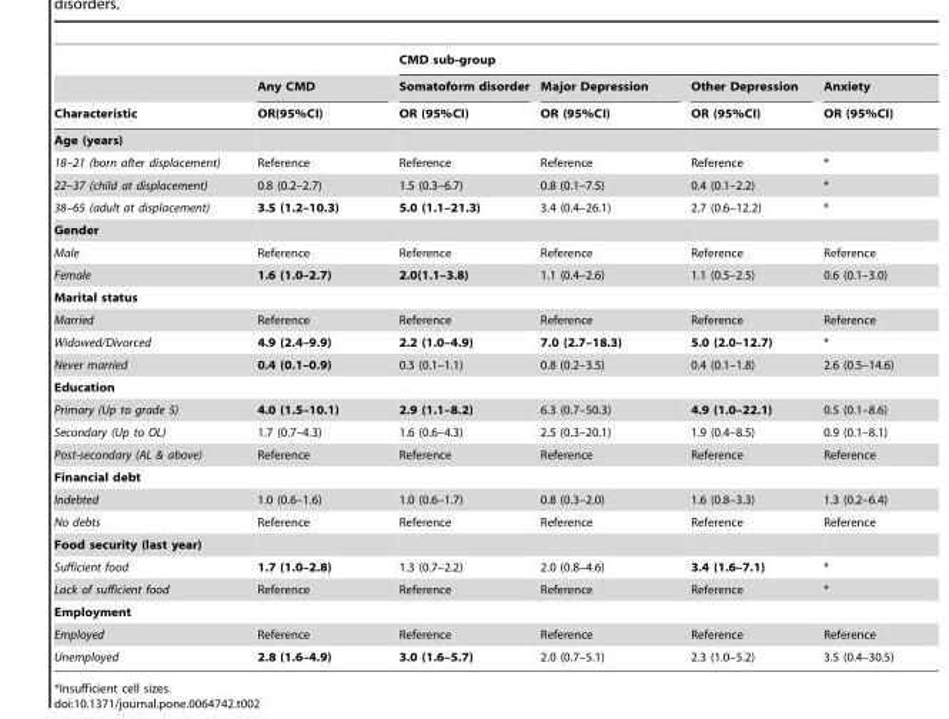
<table><thead><tr><td rowspan="3">Characteristic</td><td rowspan="3">Any CMD OR(95%CI)</td><td colspan="4">CMD sub-group</td></tr><tr><td rowspan="2">Somatoform disorder OR (95%CI)</td><td rowspan="2">Major Depression OR (95%CI)</td><td rowspan="2">Other Depression OR (95%CI)</td><td rowspan="2">Anxiety OR (95%CI)</td></tr><tr></tr></thead><tbody><tr><td colspan="6">Age (years)</td></tr><tr><td>18–21 (born after displacement)</td><td>Reference</td><td>Reference</td><td>Reference</td><td>Reference</td><td>*</td></tr><tr><td>22–37 (child at displacement)</td><td>0.8 (0.2–2.7)</td><td>1.5 (0.3–6.7)</td><td>0.8 (0.1–7.5)</td><td>0.4 (0.1–2.2)</td><td>*</td></tr><tr><td>38–65 (adult at displacement)</td><td>3.5 (1.2–10.3)</td><td>5.0 (1.1–21.3)</td><td>3.4 (0.4–26.1)</td><td>2.7 (0.6–12.2)</td><td>*</td></tr><tr><td colspan="6">Gender</td></tr><tr><td>Male</td><td>Reference</td><td>Reference</td><td>Reference</td><td>Reference</td><td>Reference</td></tr><tr><td>Female</td><td>1.6 (1.0–2.7)</td><td>2.0(1.1–3.8)</td><td>1.1 (0.4–2.6)</td><td>1.1 (0.5–2.5)</td><td>0.6 (0.1–3.0)</td></tr><tr><td colspan="6">Marital status</td></tr><tr><td>Married</td><td>Reference</td><td>Reference</td><td>Reference</td><td>Reference</td><td>Reference</td></tr><tr><td>Widowed/Divorced</td><td>4.9 (2.4–9.9)</td><td>2.2 (1.0–4.9)</td><td>7.0 (2.7–18.3)</td><td>5.0 (2.0–12.7)</td><td>*</td></tr><tr><td>Never married</td><td>0.4 (0.1–0.9)</td><td>0.3 (0.1–1.1)</td><td>0.8 (0.2–3.5)</td><td>0.4 (0.1–1.8)</td><td>2.6 (0.5–14.6)</td></tr><tr><td colspan="6">Education</td></tr><tr><td>Primary (Up to grade 5)</td><td>4.0 (1.5–10.1)</td><td>2.9 (1.1–8.2)</td><td>6.3 (0.7–50.3)</td><td>4.9 (1.0–22.1)</td><td>0.5 (0.1–8.6)</td></tr><tr><td>Secondary (Up to OL)</td><td>1.7 (0.7–4.3)</td><td>1.6 (0.6–4.3)</td><td>2.5 (0.3–20.1)</td><td>1.9 (0.4–8.5)</td><td>0.9 (0.1–8.1)</td></tr><tr><td>Post-secondary (AL &amp; above)</td><td>Reference</td><td>Reference</td><td>Reference</td><td>Reference</td><td>Reference</td></tr><tr><td colspan="6">Financial debt</td></tr><tr><td>Indebted</td><td>1.0 (0.6–1.6)</td><td>1.0 (0.6–1.7)</td><td>0.8 (0.3–2.0)</td><td>1.6 (0.8–3.3)</td><td>1.3 (0.2–6.4)</td></tr><tr><td>No debts</td><td>Reference</td><td>Reference</td><td>Reference</td><td>Reference</td><td>Reference</td></tr><tr><td colspan="6">Food security (last year)</td></tr><tr><td>Sufficient food</td><td>1.7 (1.0–2.8)</td><td>1.3 (0.7–2.2)</td><td>2.0 (0.8–4.6)</td><td>3.4 (1.6–7.1)</td><td>*</td></tr><tr><td>Lack of sufficient food</td><td>Reference</td><td>Reference</td><td>Reference</td><td>Reference</td><td>*</td></tr><tr><td colspan="6">Employment</td></tr><tr><td>Employed</td><td>Reference</td><td>Reference</td><td>Reference</td><td>Reference</td><td>Reference</td></tr><tr><td>Unemployed</td><td>2.8 (1.6–4.9)</td><td>3.0 (1.6–5.7)</td><td>2.0 (0.7–5.1)</td><td>2.3 (1.0–5.2)</td><td>3.5 (0.4–30.5)</td></tr></tbody></table>